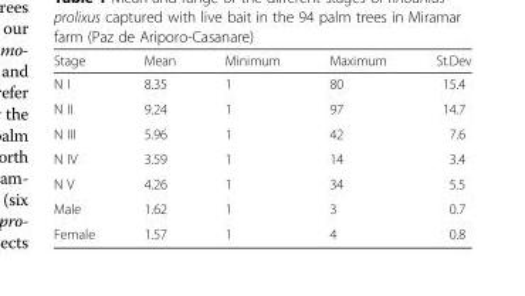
<table><thead><tr><td>Stage</td><td>Mean</td><td>Minimum</td><td>Maximum</td><td>St.Dev</td></tr></thead><tbody><tr><td>N I</td><td>8.35</td><td>1</td><td>80</td><td>15.4</td></tr><tr><td>N II</td><td>9.24</td><td>1</td><td>97</td><td>14.7</td></tr><tr><td>N III</td><td>5.96</td><td>1</td><td>42</td><td>7.6</td></tr><tr><td>N IV</td><td>3.59</td><td>1</td><td>14</td><td>3.4</td></tr><tr><td>N V</td><td>4.26</td><td>1</td><td>34</td><td>5.5</td></tr><tr><td>Male</td><td>1.62</td><td>1</td><td>3</td><td>0.7</td></tr><tr><td>Female</td><td>1.57</td><td>1</td><td>4</td><td>0.8</td></tr></tbody></table>